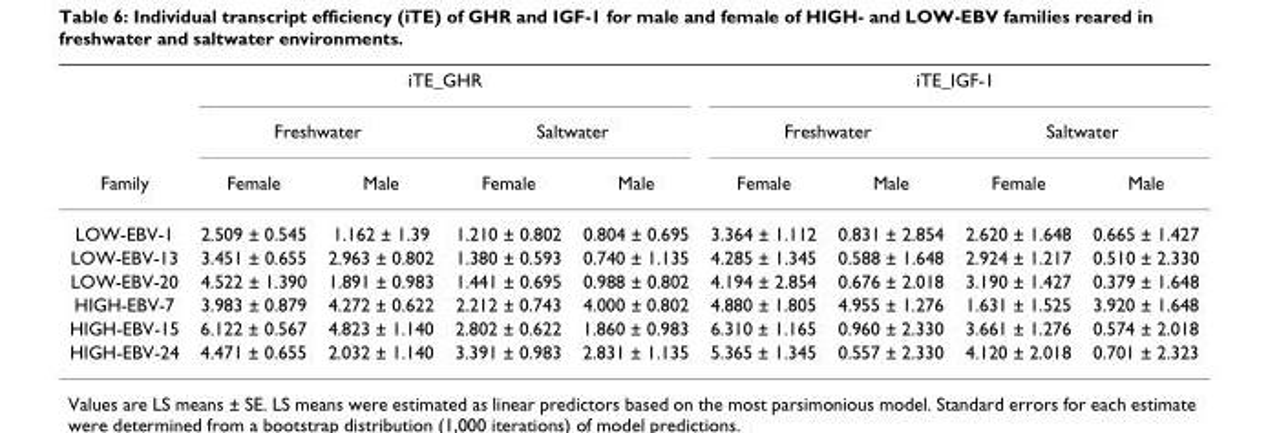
<table><thead><tr><td rowspan="3">Family</td><td colspan="4">iTE_GHR</td><td colspan="4">iTE_IGF-1</td></tr><tr><td colspan="2">Freshwater</td><td colspan="2">Saltwater</td><td colspan="2">Freshwater</td><td colspan="2">Saltwater</td></tr><tr><td>Female</td><td>Male</td><td>Female</td><td>Male</td><td>Female</td><td>Male</td><td>Female</td><td>Male</td></tr></thead><tbody><tr><td>LOW-EBV-1</td><td>2.509 ± 0.545</td><td>1.162 ± 1.39</td><td>1.210 ± 0.802</td><td>0.804 ± 0.695</td><td>3.364 ± 1.112</td><td>0.831 ± 2.854</td><td>2.620 ± 1.648</td><td>0.665 ± 1.427</td></tr><tr><td>LOW-EBV-13</td><td>3.451 ± 0.655</td><td>2.963 ± 0.802</td><td>1.380 ± 0.593</td><td>0.740 ± 1.135</td><td>4.285 ± 1.345</td><td>0.588 ± 1.648</td><td>2.924 ± 1.217</td><td>0.510 ± 2.330</td></tr><tr><td>LOW-EBV-20</td><td>4.522 ± 1.390</td><td>1.891 ± 0.983</td><td>1.441 ± 0.695</td><td>0.988 ± 0.802</td><td>4.194 ± 2.854</td><td>0.676 ± 2.018</td><td>3.190 ± 1.427</td><td>0.379 ± 1.648</td></tr><tr><td>HIGH-EBV-7</td><td>3.983 ± 0.879</td><td>4.272 ± 0.622</td><td>2.212 ± 0.743</td><td>4.000 ± 0.802</td><td>4.880 ± 1.805</td><td>4.955 ± 1.276</td><td>1.631 ± 1.525</td><td>3.920 ± 1.648</td></tr><tr><td>HIGH-EBV-15</td><td>6.122 ± 0.567</td><td>4.823 ± 1.140</td><td>2.802 ± 0.622</td><td>1.860 ± 0.983</td><td>6.310 ± 1.165</td><td>0.960 ± 2.330</td><td>3.661 ± 1.276</td><td>0.574 ± 2.018</td></tr><tr><td>HIGH-EBV-24</td><td>4.471 ± 0.655</td><td>2.032 ± 1.140</td><td>3.391 ± 0.983</td><td>2.831 ± 1.135</td><td>5.365 ± 1.345</td><td>0.557 ± 2.330</td><td>4.120 ± 2.018</td><td>0.701 ± 2.323</td></tr></tbody></table>